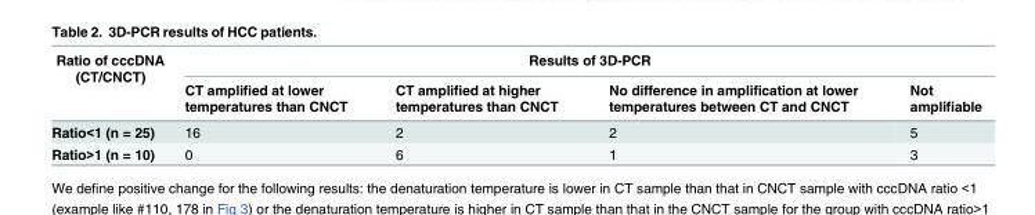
<table><thead><tr><td rowspan="2">Ratio of cccDNA (CT/CNCT)</td><td colspan="4">Results of 3D-PCR</td></tr><tr><td>CT amplified at lower temperatures than CNCT</td><td>CT amplified at higher temperatures than CNCT</td><td>No difference in amplification at lower temperatures between CT and CNCT</td><td>Not amplifiable</td></tr></thead><tbody><tr><td>Ratio&lt;1 (n = 25)</td><td>16</td><td>2</td><td>2</td><td>5</td></tr><tr><td>Ratio&gt;1 (n = 10)</td><td>0</td><td>6</td><td>1</td><td>3</td></tr></tbody></table>